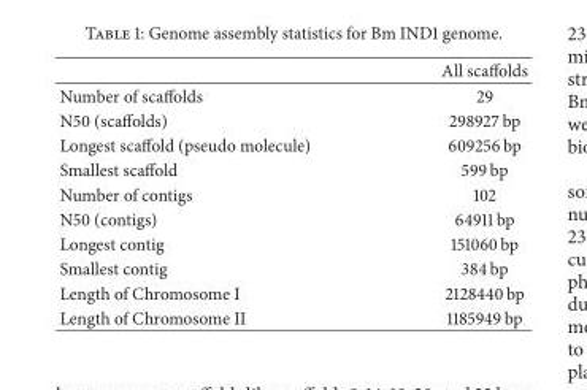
<table><thead><tr><td></td><td>All scaffolds</td></tr></thead><tbody><tr><td>Number of scaffolds</td><td>29</td></tr><tr><td>N50 (scaffolds)</td><td>298927 bp</td></tr><tr><td>Longest scaffold (pseudo molecule)</td><td>609256 bp</td></tr><tr><td>Smallest scaffold</td><td>599 bp</td></tr><tr><td>Number of contigs</td><td>102</td></tr><tr><td>N50 (contigs)</td><td>64911 bp</td></tr><tr><td>Longest contig</td><td>151060 bp</td></tr><tr><td>Smallest contig</td><td>384 bp</td></tr><tr><td>Length of Chromosome I</td><td>2128440 bp</td></tr><tr><td>Length of Chromosome II</td><td>1185949 bp</td></tr></tbody></table>